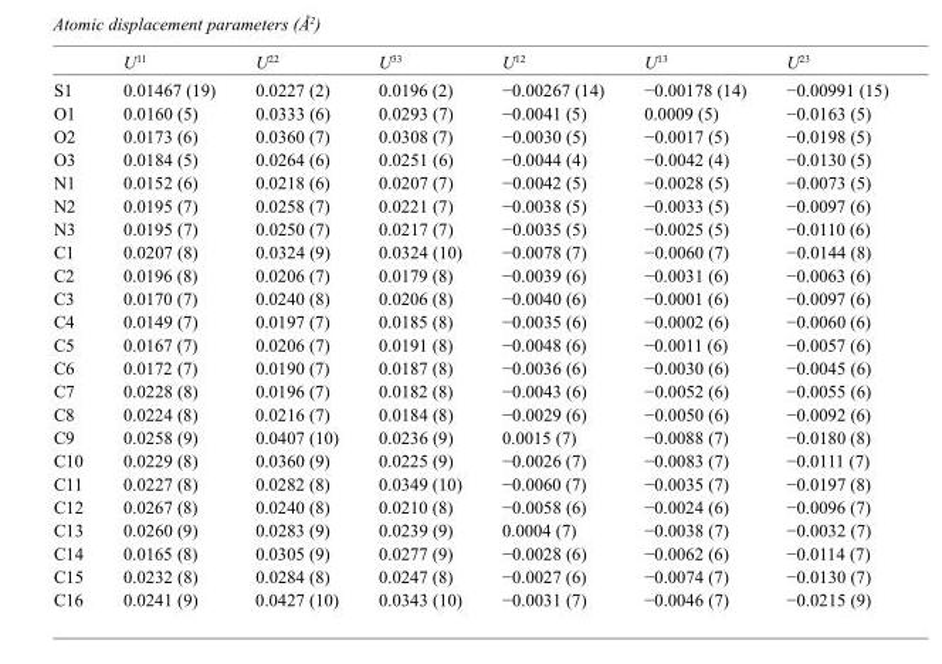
<table><thead><tr><td></td><td>U<sup>11</sup></td><td>U<sup>22</sup></td><td>U<sup>33</sup></td><td>U<sup>12</sup></td><td>U<sup>13</sup></td><td>U<sup>23</sup></td></tr></thead><tbody><tr><td>S1</td><td>0.01467 (19)</td><td>0.0227 (2)</td><td>0.0196 (2)</td><td>−0.00267 (14)</td><td>−0.00178 (14)</td><td>−0.00991 (15)</td></tr><tr><td>O1</td><td>0.0160 (5)</td><td>0.0333 (6)</td><td>0.0293 (7)</td><td>−0.0041 (5)</td><td>0.0009 (5)</td><td>−0.0163 (5)</td></tr><tr><td>O2</td><td>0.0173 (6)</td><td>0.0360 (7)</td><td>0.0308 (7)</td><td>−0.0030 (5)</td><td>−0.0017 (5)</td><td>−0.0198 (5)</td></tr><tr><td>O3</td><td>0.0184 (5)</td><td>0.0264 (6)</td><td>0.0251 (6)</td><td>−0.0044 (4)</td><td>−0.0042 (4)</td><td>−0.0130 (5)</td></tr><tr><td>N1</td><td>0.0152 (6)</td><td>0.0218 (6)</td><td>0.0207 (7)</td><td>−0.0042 (5)</td><td>−0.0028 (5)</td><td>−0.0073 (5)</td></tr><tr><td>N2</td><td>0.0195 (7)</td><td>0.0258 (7)</td><td>0.0221 (7)</td><td>−0.0038 (5)</td><td>−0.0033 (5)</td><td>−0.0097 (6)</td></tr><tr><td>N3</td><td>0.0195 (7)</td><td>0.0250 (7)</td><td>0.0217 (7)</td><td>−0.0035 (5)</td><td>−0.0025 (5)</td><td>−0.0110 (6)</td></tr><tr><td>C1</td><td>0.0207 (8)</td><td>0.0324 (9)</td><td>0.0324 (10)</td><td>−0.0078 (7)</td><td>−0.0060 (7)</td><td>−0.0144 (8)</td></tr><tr><td>C2</td><td>0.0196 (8)</td><td>0.0206 (7)</td><td>0.0179 (8)</td><td>−0.0039 (6)</td><td>−0.0031 (6)</td><td>−0.0063 (6)</td></tr><tr><td>C3</td><td>0.0170 (7)</td><td>0.0240 (8)</td><td>0.0206 (8)</td><td>−0.0040 (6)</td><td>−0.0001 (6)</td><td>−0.0097 (6)</td></tr><tr><td>C4</td><td>0.0149 (7)</td><td>0.0197 (7)</td><td>0.0185 (8)</td><td>−0.0035 (6)</td><td>−0.0002 (6)</td><td>−0.0060 (6)</td></tr><tr><td>C5</td><td>0.0167 (7)</td><td>0.0206 (7)</td><td>0.0191 (8)</td><td>−0.0048 (6)</td><td>−0.0011 (6)</td><td>−0.0057 (6)</td></tr><tr><td>C6</td><td>0.0172 (7)</td><td>0.0190 (7)</td><td>0.0187 (8)</td><td>−0.0036 (6)</td><td>−0.0030 (6)</td><td>−0.0045 (6)</td></tr><tr><td>C7</td><td>0.0228 (8)</td><td>0.0196 (7)</td><td>0.0182 (8)</td><td>−0.0043 (6)</td><td>−0.0052 (6)</td><td>−0.0055 (6)</td></tr><tr><td>C8</td><td>0.0224 (8)</td><td>0.0216 (7)</td><td>0.0184 (8)</td><td>−0.0029 (6)</td><td>−0.0050 (6)</td><td>−0.0092 (6)</td></tr><tr><td>C9</td><td>0.0258 (9)</td><td>0.0407 (10)</td><td>0.0236 (9)</td><td>0.0015 (7)</td><td>−0.0088 (7)</td><td>−0.0180 (8)</td></tr><tr><td>C10</td><td>0.0229 (8)</td><td>0.0360 (9)</td><td>0.0225 (9)</td><td>−0.0026 (7)</td><td>−0.0083 (7)</td><td>−0.0111 (7)</td></tr><tr><td>C11</td><td>0.0227 (8)</td><td>0.0282 (8)</td><td>0.0349 (10)</td><td>−0.0060 (7)</td><td>−0.0035 (7)</td><td>−0.0197 (8)</td></tr><tr><td>C12</td><td>0.0267 (8)</td><td>0.0240 (8)</td><td>0.0210 (8)</td><td>−0.0058 (6)</td><td>−0.0024 (6)</td><td>−0.0096 (7)</td></tr><tr><td>C13</td><td>0.0260 (9)</td><td>0.0283 (9)</td><td>0.0239 (9)</td><td>0.0004 (7)</td><td>−0.0038 (7)</td><td>−0.0032 (7)</td></tr><tr><td>C14</td><td>0.0165 (8)</td><td>0.0305 (9)</td><td>0.0277 (9)</td><td>−0.0028 (6)</td><td>−0.0062 (6)</td><td>−0.0114 (7)</td></tr><tr><td>C15</td><td>0.0232 (8)</td><td>0.0284 (8)</td><td>0.0247 (8)</td><td>−0.0027 (6)</td><td>−0.0074 (7)</td><td>−0.0130 (7)</td></tr><tr><td>C16</td><td>0.0241 (9)</td><td>0.0427 (10)</td><td>0.0343 (10)</td><td>−0.0031 (7)</td><td>−0.0046 (7)</td><td>−0.0215 (9)</td></tr></tbody></table>